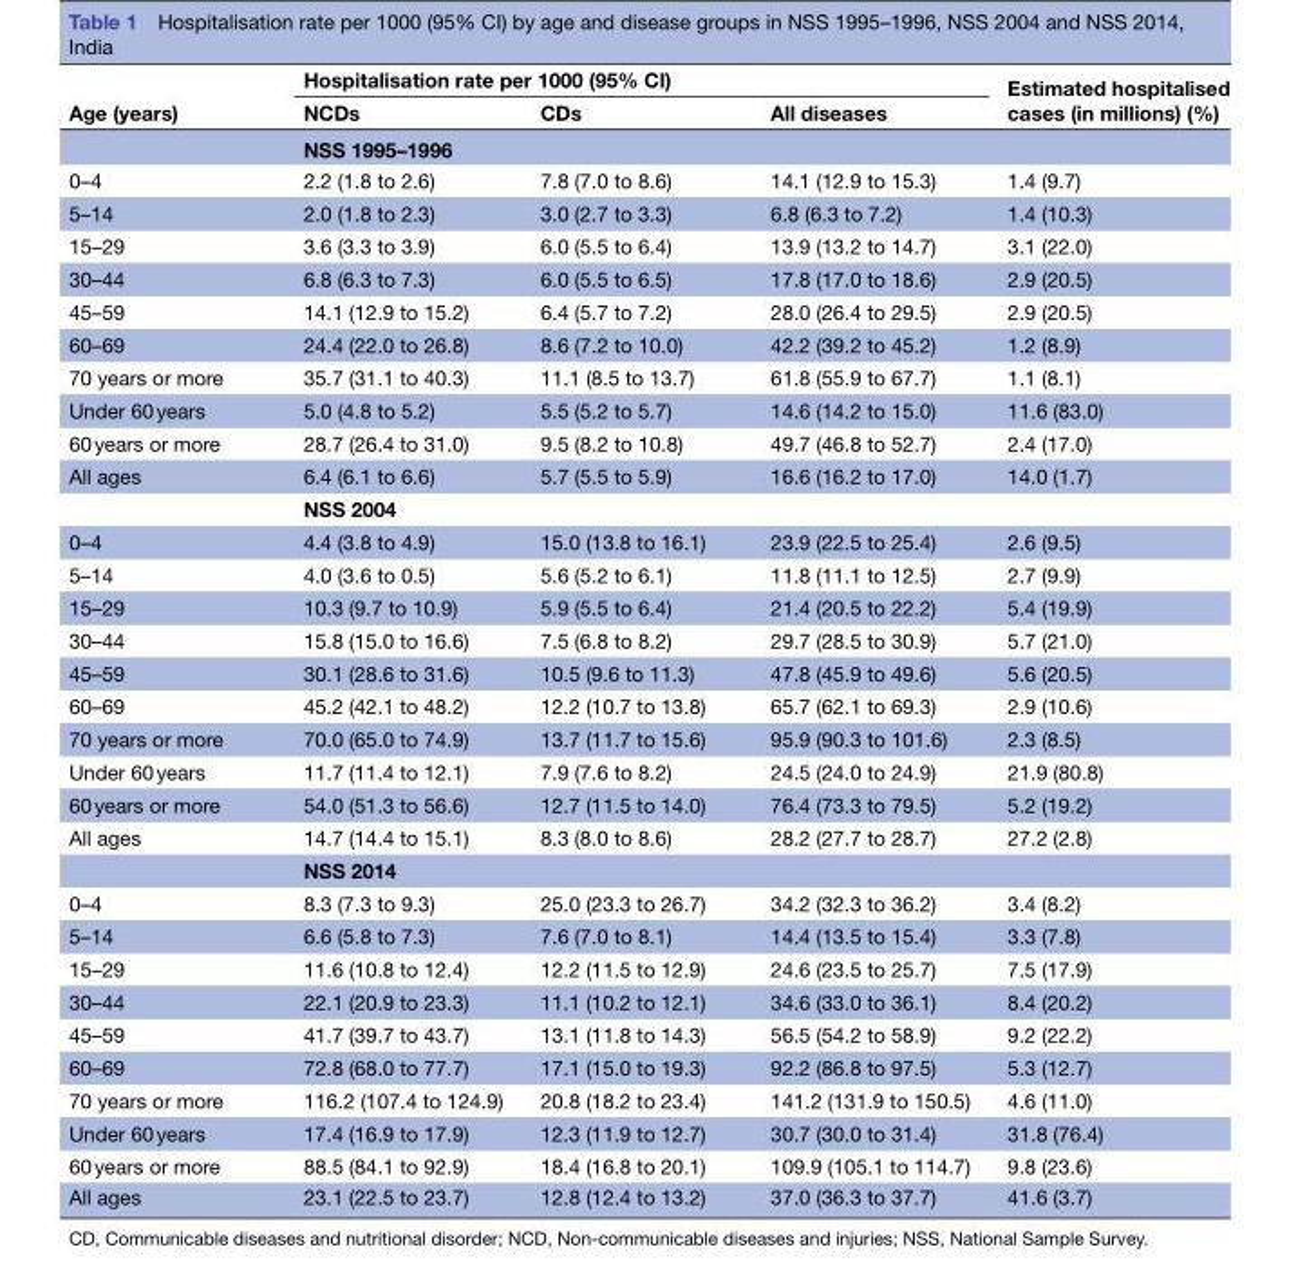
<table><thead><tr><td rowspan="2">Age (years)</td><td colspan="3">Hospitalisation rate per 1000 (95% CI)</td><td rowspan="2">Estimated hospitalised cases (in millions) (%)</td></tr><tr><td>NCDs</td><td>CDs</td><td>All diseases</td></tr></thead><tbody><tr><td></td><td colspan="4">NSS 1995–1996</td></tr><tr><td>0–4</td><td>2.2 (1.8 to 2.6)</td><td>7.8 (7.0 to 8.6)</td><td>14.1 (12.9 to 15.3)</td><td>1.4 (9.7)</td></tr><tr><td>5–14</td><td>2.0 (1.8 to 2.3)</td><td>3.0 (2.7 to 3.3)</td><td>6.8 (6.3 to 7.2)</td><td>1.4 (10.3)</td></tr><tr><td>15–29</td><td>3.6 (3.3 to 3.9)</td><td>6.0 (5.5 to 6.4)</td><td>13.9 (13.2 to 14.7)</td><td>3.1 (22.0)</td></tr><tr><td>30–44</td><td>6.8 (6.3 to 7.3)</td><td>6.0 (5.5 to 6.5)</td><td>17.8 (17.0 to 18.6)</td><td>2.9 (20.5)</td></tr><tr><td>45–59</td><td>14.1 (12.9 to 15.2)</td><td>6.4 (5.7 to 7.2)</td><td>28.0 (26.4 to 29.5)</td><td>2.9 (20.5)</td></tr><tr><td>60–69</td><td>24.4 (22.0 to 26.8)</td><td>8.6 (7.2 to 10.0)</td><td>42.2 (39.2 to 45.2)</td><td>1.2 (8.9)</td></tr><tr><td>70 years or more</td><td>35.7 (31.1 to 40.3)</td><td>11.1 (8.5 to 13.7)</td><td>61.8 (55.9 to 67.7)</td><td>1.1 (8.1)</td></tr><tr><td>Under 60 years</td><td>5.0 (4.8 to 5.2)</td><td>5.5 (5.2 to 5.7)</td><td>14.6 (14.2 to 15.0)</td><td>11.6 (83.0)</td></tr><tr><td>60 years or more</td><td>28.7 (26.4 to 31.0)</td><td>9.5 (8.2 to 10.8)</td><td>49.7 (46.8 to 52.7)</td><td>2.4 (17.0)</td></tr><tr><td rowspan="2">All ages</td><td>6.4 (6.1 to 6.6)</td><td>5.7 (5.5 to 5.9)</td><td>16.6 (16.2 to 17.0)</td><td>14.0 (1.7)</td></tr><tr><td colspan="4">NSS 2004</td></tr><tr><td>0–4</td><td>4.4 (3.8 to 4.9)</td><td>15.0 (13.8 to 16.1)</td><td>23.9 (22.5 to 25.4)</td><td>2.6 (9.5)</td></tr><tr><td>5–14</td><td>4.0 (3.6 to 0.5)</td><td>5.6 (5.2 to 6.1)</td><td>11.8 (11.1 to 12.5)</td><td>2.7 (9.9)</td></tr><tr><td>15–29</td><td>10.3 (9.7 to 10.9)</td><td>5.9 (5.5 to 6.4)</td><td>21.4 (20.5 to 22.2)</td><td>5.4 (19.9)</td></tr><tr><td>30–44</td><td>15.8 (15.0 to 16.6)</td><td>7.5 (6.8 to 8.2)</td><td>29.7 (28.5 to 30.9)</td><td>5.7 (21.0)</td></tr><tr><td>45–59</td><td>30.1 (28.6 to 31.6)</td><td>10.5 (9.6 to 11.3)</td><td>47.8 (45.9 to 49.6)</td><td>5.6 (20.5)</td></tr><tr><td>60–69</td><td>45.2 (42.1 to 48.2)</td><td>12.2 (10.7 to 13.8)</td><td>65.7 (62.1 to 69.3)</td><td>2.9 (10.6)</td></tr><tr><td>70 years or more</td><td>70.0 (65.0 to 74.9)</td><td>13.7 (11.7 to 15.6)</td><td>95.9 (90.3 to 101.6)</td><td>2.3 (8.5)</td></tr><tr><td>Under 60 years</td><td>11.7 (11.4 to 12.1)</td><td>7.9 (7.6 to 8.2)</td><td>24.5 (24.0 to 24.9)</td><td>21.9 (80.8)</td></tr><tr><td>60 years or more</td><td>54.0 (51.3 to 56.6)</td><td>12.7 (11.5 to 14.0)</td><td>76.4 (73.3 to 79.5)</td><td>5.2 (19.2)</td></tr><tr><td rowspan="2">All ages</td><td>14.7 (14.4 to 15.1)</td><td>8.3 (8.0 to 8.6)</td><td>28.2 (27.7 to 28.7)</td><td>27.2 (2.8)</td></tr><tr><td colspan="4">NSS 2014</td></tr><tr><td>0–4</td><td>8.3 (7.3 to 9.3)</td><td>25.0 (23.3 to 26.7)</td><td>34.2 (32.3 to 36.2)</td><td>3.4 (8.2)</td></tr><tr><td>5–14</td><td>6.6 (5.8 to 7.3)</td><td>7.6 (7.0 to 8.1)</td><td>14.4 (13.5 to 15.4)</td><td>3.3 (7.8)</td></tr><tr><td>15–29</td><td>11.6 (10.8 to 12.4)</td><td>12.2 (11.5 to 12.9)</td><td>24.6 (23.5 to 25.7)</td><td>7.5 (17.9)</td></tr><tr><td>30–44</td><td>22.1 (20.9 to 23.3)</td><td>11.1 (10.2 to 12.1)</td><td>34.6 (33.0 to 36.1)</td><td>8.4 (20.2)</td></tr><tr><td>45–59</td><td>41.7 (39.7 to 43.7)</td><td>13.1 (11.8 to 14.3)</td><td>56.5 (54.2 to 58.9)</td><td>9.2 (22.2)</td></tr><tr><td>60–69</td><td>72.8 (68.0 to 77.7)</td><td>17.1 (15.0 to 19.3)</td><td>92.2 (86.8 to 97.5)</td><td>5.3 (12.7)</td></tr><tr><td>70 years or more</td><td>116.2 (107.4 to 124.9)</td><td>20.8 (18.2 to 23.4)</td><td>141.2 (131.9 to 150.5)</td><td>4.6 (11.0)</td></tr><tr><td>Under 60 years</td><td>17.4 (16.9 to 17.9)</td><td>12.3 (11.9 to 12.7)</td><td>30.7 (30.0 to 31.4)</td><td>31.8 (76.4)</td></tr><tr><td>60 years or more</td><td>88.5 (84.1 to 92.9)</td><td>18.4 (16.8 to 20.1)</td><td>109.9 (105.1 to 114.7)</td><td>9.8 (23.6)</td></tr><tr><td>All ages</td><td>23.1 (22.5 to 23.7)</td><td>12.8 (12.4 to 13.2)</td><td>37.0 (36.3 to 37.7)</td><td>41.6 (3.7)</td></tr></tbody></table>